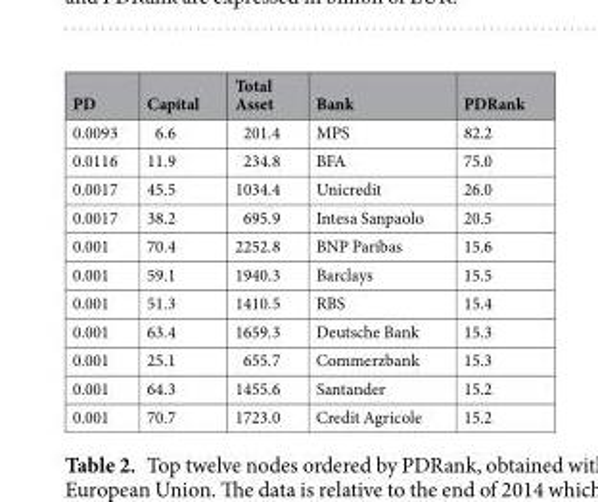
<table><thead><tr><td>PD</td><td>Capital</td><td>Total Asset</td><td>Bank</td><td>PDRank</td></tr></thead><tbody><tr><td>0.0093</td><td>6.6</td><td>201.4</td><td>MPS</td><td>82.2</td></tr><tr><td>0.0116</td><td>11.9</td><td>234.8</td><td>BFA</td><td>75.0</td></tr><tr><td>0.0017</td><td>45.5</td><td>1034.4</td><td>Unicredit</td><td>26.0</td></tr><tr><td>0.0017</td><td>38.2</td><td>695.9</td><td>Intesa Sanpaolo</td><td>20.5</td></tr><tr><td>0.001</td><td>70.4</td><td>2252.8</td><td>BNP Paribas</td><td>15.6</td></tr><tr><td>0.001</td><td>59.1</td><td>1940.3</td><td>Barclays</td><td>15.5</td></tr><tr><td>0.001</td><td>51.3</td><td>1410.5</td><td>RBS</td><td>15.4</td></tr><tr><td>0.001</td><td>63.4</td><td>1659.3</td><td>Deutsche Bank</td><td>15.3</td></tr><tr><td>0.001</td><td>25.1</td><td>655.7</td><td>Commerzbank</td><td>15.3</td></tr><tr><td>0.001</td><td>64.3</td><td>1455.6</td><td>Santander</td><td>15.2</td></tr><tr><td>0.001</td><td>70.7</td><td>1723.0</td><td>Credit Agricole</td><td>15.2</td></tr></tbody></table>